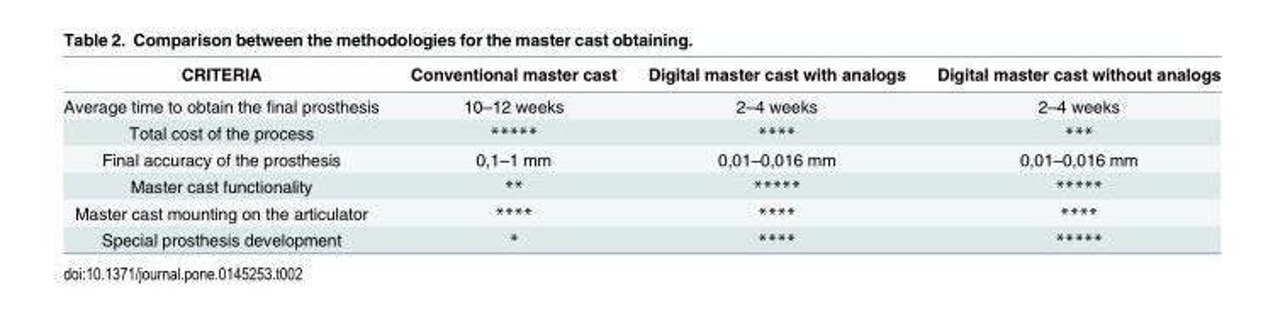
<table><thead><tr><td>CRITERIA</td><td>Conventional master cast</td><td>Digital master cast with analogs</td><td>Digital master cast without analogs</td></tr></thead><tbody><tr><td>Average time to obtain the final prosthesis</td><td>10–12 weeks</td><td>2–4 weeks</td><td>2–4 weeks</td></tr><tr><td>Total cost of the process</td><td>*****</td><td>****</td><td>***</td></tr><tr><td>Final accuracy of the prosthesis</td><td>0,1–1 mm</td><td>0,01–0,016 mm</td><td>0,01–0,016 mm</td></tr><tr><td>Master cast functionality</td><td>**</td><td>*****</td><td>*****</td></tr><tr><td>Master cast mounting on the articulator</td><td>****</td><td>****</td><td>****</td></tr><tr><td>Special prosthesis development</td><td>*</td><td>****</td><td>*****</td></tr></tbody></table>